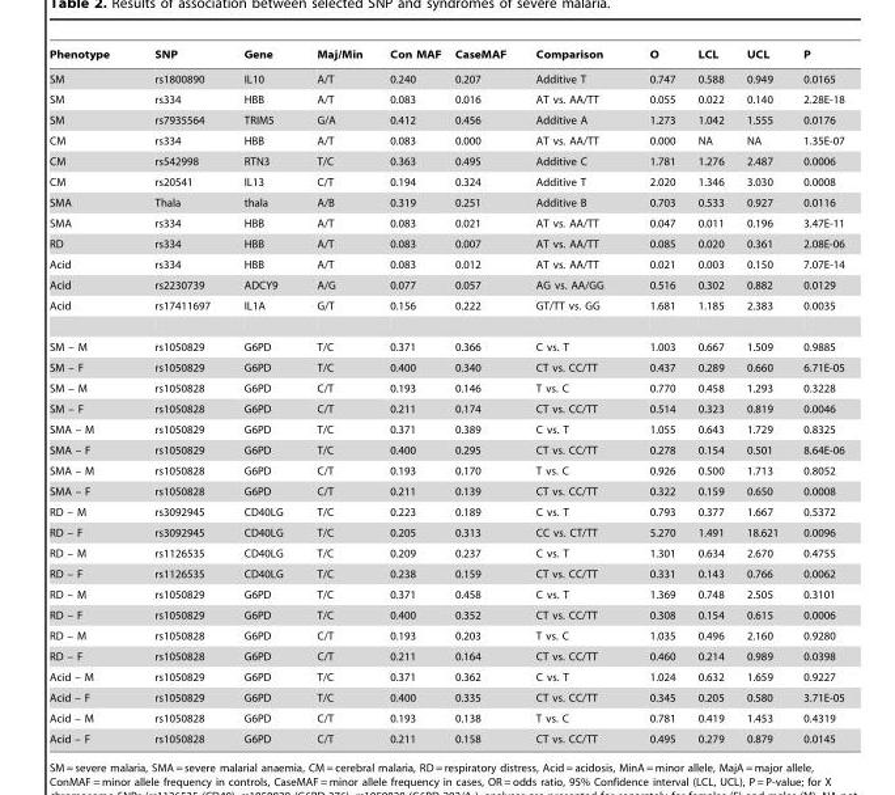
<table><thead><tr><td>Phenotype</td><td>SNP</td><td>Gene</td><td>Maj/Min</td><td>Con MAF</td><td>CaseMAF</td><td>Comparison</td><td>O</td><td>LCL</td><td>UCL</td><td>P</td></tr></thead><tbody><tr><td>SM</td><td>rs1800890</td><td>IL10</td><td>A/T</td><td>0.240</td><td>0.207</td><td>Additive T</td><td>0.747</td><td>0.588</td><td>0.949</td><td>0.0165</td></tr><tr><td>SM</td><td>rs334</td><td>HBB</td><td>A/T</td><td>0.083</td><td>0.016</td><td>AT vs. AA/TT</td><td>0.055</td><td>0.022</td><td>0.140</td><td>2.28E-18</td></tr><tr><td>SM</td><td>rs7935564</td><td>TRIM5</td><td>G/A</td><td>0.412</td><td>0.456</td><td>Additive A</td><td>1.273</td><td>1.042</td><td>1.555</td><td>0.0176</td></tr><tr><td>CM</td><td>rs334</td><td>HBB</td><td>A/T</td><td>0.083</td><td>0.000</td><td>AT vs. AA/TT</td><td>0.000</td><td>NA</td><td>NA</td><td>1.35E-07</td></tr><tr><td>CM</td><td>rs542998</td><td>RTN3</td><td>T/C</td><td>0.363</td><td>0.495</td><td>Additive C</td><td>1.781</td><td>1.276</td><td>2.487</td><td>0.0006</td></tr><tr><td>CM</td><td>rs20541</td><td>IL13</td><td>C/T</td><td>0.194</td><td>0.324</td><td>Additive T</td><td>2.020</td><td>1.346</td><td>3.030</td><td>0.0008</td></tr><tr><td>SMA</td><td>Thala</td><td>thala</td><td>A/B</td><td>0.319</td><td>0.251</td><td>Additive B</td><td>0.703</td><td>0.533</td><td>0.927</td><td>0.0116</td></tr><tr><td>SMA</td><td>rs334</td><td>HBB</td><td>A/T</td><td>0.083</td><td>0.021</td><td>AT vs. AA/TT</td><td>0.047</td><td>0.011</td><td>0.196</td><td>3.47E-11</td></tr><tr><td>RD</td><td>rs334</td><td>HBB</td><td>A/T</td><td>0.083</td><td>0.007</td><td>AT vs. AA/TT</td><td>0.085</td><td>0.020</td><td>0.361</td><td>2.08E-06</td></tr><tr><td>Acid</td><td>rs334</td><td>HBB</td><td>A/T</td><td>0.083</td><td>0.012</td><td>AT vs. AA/TT</td><td>0.021</td><td>0.003</td><td>0.150</td><td>7.07E-14</td></tr><tr><td>Acid</td><td>rs2230739</td><td>ADCY9</td><td>A/G</td><td>0.077</td><td>0.057</td><td>AG vs. AA/GG</td><td>0.516</td><td>0.302</td><td>0.882</td><td>0.0129</td></tr><tr><td>Acid</td><td>rs17411697</td><td>IL1A</td><td>G/T</td><td>0.156</td><td>0.222</td><td>GT/TT vs. GG</td><td>1.681</td><td>1.185</td><td>2.383</td><td>0.0035</td></tr><tr><td>SM – M</td><td>rs1050829</td><td>G6PD</td><td>T/C</td><td>0.371</td><td>0.366</td><td>C vs. T</td><td>1.003</td><td>0.667</td><td>1.509</td><td>0.9885</td></tr><tr><td>SM – F</td><td>rs1050829</td><td>G6PD</td><td>T/C</td><td>0.400</td><td>0.340</td><td>CT vs. CC/TT</td><td>0.437</td><td>0.289</td><td>0.660</td><td>6.71E-05</td></tr><tr><td>SM – M</td><td>rs1050828</td><td>G6PD</td><td>C/T</td><td>0.193</td><td>0.146</td><td>T vs. C</td><td>0.770</td><td>0.458</td><td>1.293</td><td>0.3228</td></tr><tr><td>SM – F</td><td>rs1050828</td><td>G6PD</td><td>C/T</td><td>0.211</td><td>0.174</td><td>CT vs. CC/TT</td><td>0.514</td><td>0.323</td><td>0.819</td><td>0.0046</td></tr><tr><td>SMA – M</td><td>rs1050829</td><td>G6PD</td><td>T/C</td><td>0.371</td><td>0.389</td><td>C vs. T</td><td>1.055</td><td>0.643</td><td>1.729</td><td>0.8325</td></tr><tr><td>SMA – F</td><td>rs1050829</td><td>G6PD</td><td>T/C</td><td>0.400</td><td>0.295</td><td>CT vs. CC/TT</td><td>0.278</td><td>0.154</td><td>0.501</td><td>8.64E-06</td></tr><tr><td>SMA – M</td><td>rs1050828</td><td>G6PD</td><td>C/T</td><td>0.193</td><td>0.170</td><td>T vs. C</td><td>0.926</td><td>0.500</td><td>1.713</td><td>0.8052</td></tr><tr><td>SMA – F</td><td>rs1050828</td><td>G6PD</td><td>C/T</td><td>0.211</td><td>0.139</td><td>CT vs. CC/TT</td><td>0.322</td><td>0.159</td><td>0.650</td><td>0.0008</td></tr><tr><td>RD – M</td><td>rs3092945</td><td>CD40LG</td><td>T/C</td><td>0.223</td><td>0.189</td><td>C vs. T</td><td>0.793</td><td>0.377</td><td>1.667</td><td>0.5372</td></tr><tr><td>RD – F</td><td>rs3092945</td><td>CD40LG</td><td>T/C</td><td>0.205</td><td>0.313</td><td>CC vs. CT/TT</td><td>5.270</td><td>1.491</td><td>18.621</td><td>0.0096</td></tr><tr><td>RD – M</td><td>rs1126535</td><td>CD40LG</td><td>T/C</td><td>0.209</td><td>0.237</td><td>C vs. T</td><td>1.301</td><td>0.634</td><td>2.670</td><td>0.4755</td></tr><tr><td>RD – F</td><td>rs1126535</td><td>CD40LG</td><td>T/C</td><td>0.238</td><td>0.159</td><td>CT vs. CC/TT</td><td>0.331</td><td>0.143</td><td>0.766</td><td>0.0062</td></tr><tr><td>RD – M</td><td>rs1050829</td><td>G6PD</td><td>T/C</td><td>0.371</td><td>0.458</td><td>C vs. T</td><td>1.369</td><td>0.748</td><td>2.505</td><td>0.3101</td></tr><tr><td>RD – F</td><td>rs1050829</td><td>G6PD</td><td>T/C</td><td>0.400</td><td>0.352</td><td>CT vs. CC/TT</td><td>0.308</td><td>0.154</td><td>0.615</td><td>0.0006</td></tr><tr><td>RD – M</td><td>rs1050828</td><td>G6PD</td><td>C/T</td><td>0.193</td><td>0.203</td><td>T vs. C</td><td>1.035</td><td>0.496</td><td>2.160</td><td>0.9280</td></tr><tr><td>RD – F</td><td>rs1050828</td><td>G6PD</td><td>C/T</td><td>0.211</td><td>0.164</td><td>CT vs. CC/TT</td><td>0.460</td><td>0.214</td><td>0.989</td><td>0.0398</td></tr><tr><td>Acid – M</td><td>rs1050829</td><td>G6PD</td><td>T/C</td><td>0.371</td><td>0.362</td><td>C vs. T</td><td>1.024</td><td>0.632</td><td>1.659</td><td>0.9227</td></tr><tr><td>Acid – F</td><td>rs1050829</td><td>G6PD</td><td>T/C</td><td>0.400</td><td>0.335</td><td>CT vs. CC/TT</td><td>0.345</td><td>0.205</td><td>0.580</td><td>3.71E-05</td></tr><tr><td>Acid – M</td><td>rs1050828</td><td>G6PD</td><td>C/T</td><td>0.193</td><td>0.138</td><td>T vs. C</td><td>0.781</td><td>0.419</td><td>1.453</td><td>0.4319</td></tr><tr><td>Acid – F</td><td>rs1050828</td><td>G6PD</td><td>C/T</td><td>0.211</td><td>0.158</td><td>CT vs. CC/TT</td><td>0.495</td><td>0.279</td><td>0.879</td><td>0.0145</td></tr></tbody></table>